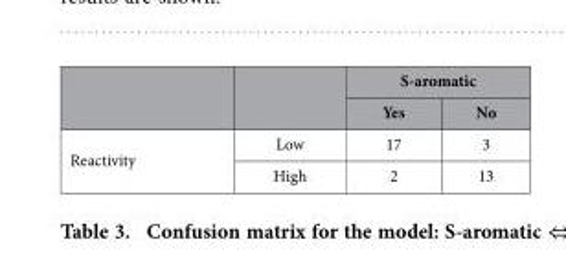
<table><thead><tr><td rowspan="2"></td><td rowspan="2"></td><td colspan="2">S-aromatic</td></tr><tr><td>Yes</td><td>No</td></tr></thead><tbody><tr><td rowspan="2">Reactivity</td><td>Low</td><td>17</td><td>3</td></tr><tr><td>High</td><td>2</td><td>13</td></tr></tbody></table>